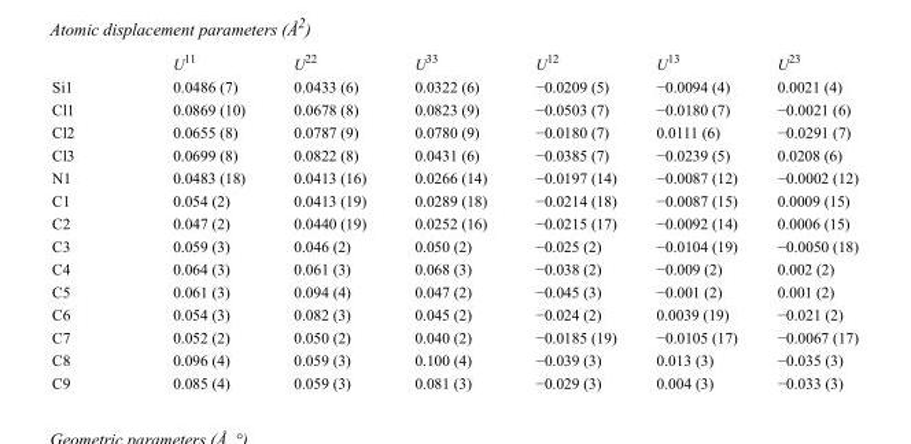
<table><thead><tr><td></td><td>U<sup>11</sup></td><td>U<sup>22</sup></td><td>U<sup>33</sup></td><td>U<sup>12</sup></td><td>U<sup>13</sup></td><td>U<sup>23</sup></td></tr></thead><tbody><tr><td>Si1</td><td>0.0486 (7)</td><td>0.0433 (6)</td><td>0.0322 (6)</td><td>−0.0209 (5)</td><td>−0.0094 (4)</td><td>0.0021 (4)</td></tr><tr><td>Cl1</td><td>0.0869 (10)</td><td>0.0678 (8)</td><td>0.0823 (9)</td><td>−0.0503 (7)</td><td>−0.0180 (7)</td><td>−0.0021 (6)</td></tr><tr><td>Cl2</td><td>0.0655 (8)</td><td>0.0787 (9)</td><td>0.0780 (9)</td><td>−0.0180 (7)</td><td>0.0111 (6)</td><td>−0.0291 (7)</td></tr><tr><td>Cl3</td><td>0.0699 (8)</td><td>0.0822 (8)</td><td>0.0431 (6)</td><td>−0.0385 (7)</td><td>−0.0239 (5)</td><td>0.0208 (6)</td></tr><tr><td>N1</td><td>0.0483 (18)</td><td>0.0413 (16)</td><td>0.0266 (14)</td><td>−0.0197 (14)</td><td>−0.0087 (12)</td><td>−0.0002 (12)</td></tr><tr><td>C1</td><td>0.054 (2)</td><td>0.0413 (19)</td><td>0.0289 (18)</td><td>−0.0214 (18)</td><td>−0.0087 (15)</td><td>0.0009 (15)</td></tr><tr><td>C2</td><td>0.047 (2)</td><td>0.0440 (19)</td><td>0.0252 (16)</td><td>−0.0215 (17)</td><td>−0.0092 (14)</td><td>0.0006 (15)</td></tr><tr><td>C3</td><td>0.059 (3)</td><td>0.046 (2)</td><td>0.050 (2)</td><td>−0.025 (2)</td><td>−0.0104 (19)</td><td>−0.0050 (18)</td></tr><tr><td>C4</td><td>0.064 (3)</td><td>0.061 (3)</td><td>0.068 (3)</td><td>−0.038 (2)</td><td>−0.009 (2)</td><td>0.002 (2)</td></tr><tr><td>C5</td><td>0.061 (3)</td><td>0.094 (4)</td><td>0.047 (2)</td><td>−0.045 (3)</td><td>−0.001 (2)</td><td>0.001 (2)</td></tr><tr><td>C6</td><td>0.054 (3)</td><td>0.082 (3)</td><td>0.045 (2)</td><td>−0.024 (2)</td><td>0.0039 (19)</td><td>−0.021 (2)</td></tr><tr><td>C7</td><td>0.052 (2)</td><td>0.050 (2)</td><td>0.040 (2)</td><td>−0.0185 (19)</td><td>−0.0105 (17)</td><td>−0.0067 (17)</td></tr><tr><td>C8</td><td>0.096 (4)</td><td>0.059 (3)</td><td>0.100 (4)</td><td>−0.039 (3)</td><td>0.013 (3)</td><td>−0.035 (3)</td></tr><tr><td>C9</td><td>0.085 (4)</td><td>0.059 (3)</td><td>0.081 (3)</td><td>−0.029 (3)</td><td>0.004 (3)</td><td>−0.033 (3)</td></tr></tbody></table>